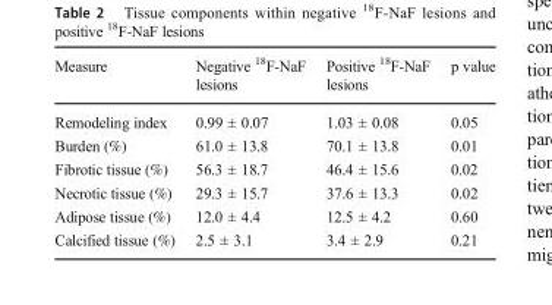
<table><thead><tr><td>Measure</td><td>Negative <sup>18</sup>F-NaF lesions</td><td>Positive <sup>18</sup>F-NaF lesions</td><td>p value</td></tr></thead><tbody><tr><td>Remodeling index</td><td>0.99 ± 0.07</td><td>1.03 ± 0.08</td><td>0.05</td></tr><tr><td>Burden (%)</td><td>61.0 ± 13.8</td><td>70.1 ± 13.8</td><td>0.01</td></tr><tr><td>Fibrotic tissue (%)</td><td>56.3 ± 18.7</td><td>46.4 ± 15.6</td><td>0.02</td></tr><tr><td>Necrotic tissue (%)</td><td>29.3 ± 15.7</td><td>37.6 ± 13.3</td><td>0.02</td></tr><tr><td>Adipose tissue (%)</td><td>12.0 ± 4.4</td><td>12.5 ± 4.2</td><td>0.60</td></tr><tr><td>Calcified tissue (%)</td><td>2.5 ± 3.1</td><td>3.4 ± 2.9</td><td>0.21</td></tr></tbody></table>